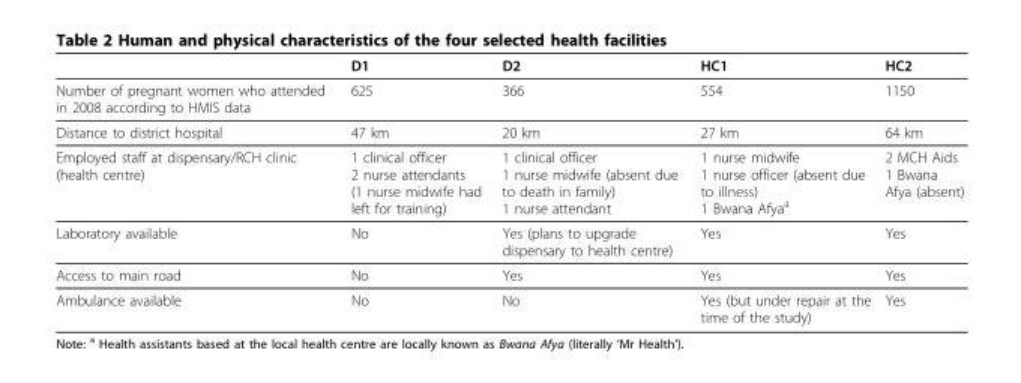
<table><thead><tr><td></td><td>D1</td><td>D2</td><td>HC1</td><td>HC2</td></tr></thead><tbody><tr><td>Number of pregnant women who attended in 2008 according to HMIS data</td><td>625</td><td>366</td><td>554</td><td>1150</td></tr><tr><td>Distance to district hospital</td><td>47 km</td><td>20 km</td><td>27 km</td><td>64 km</td></tr><tr><td>Employed staff at dispensary/RCH clinic (health centre)</td><td>1 clinical officer 2 nurse attendants (1 nurse midwife had left for training)</td><td>1 clinical officer 1 nurse midwife (absent due to death in family) 1 nurse attendant</td><td>1 nurse midwife 1 nurse officer (absent due to illness) 1 Bwana Afya<sup>a</sup></td><td>2 MCH Aids 1 Bwana Afya (absent)</td></tr><tr><td>Laboratory available</td><td>No</td><td>Yes (plans to upgrade dispensary to health centre)</td><td>Yes</td><td>Yes</td></tr><tr><td>Access to main road</td><td>No</td><td>Yes</td><td>Yes</td><td>Yes</td></tr><tr><td>Ambulance available</td><td>No</td><td>No</td><td>Yes (but under repair at the time of the study)</td><td>Yes</td></tr></tbody></table>